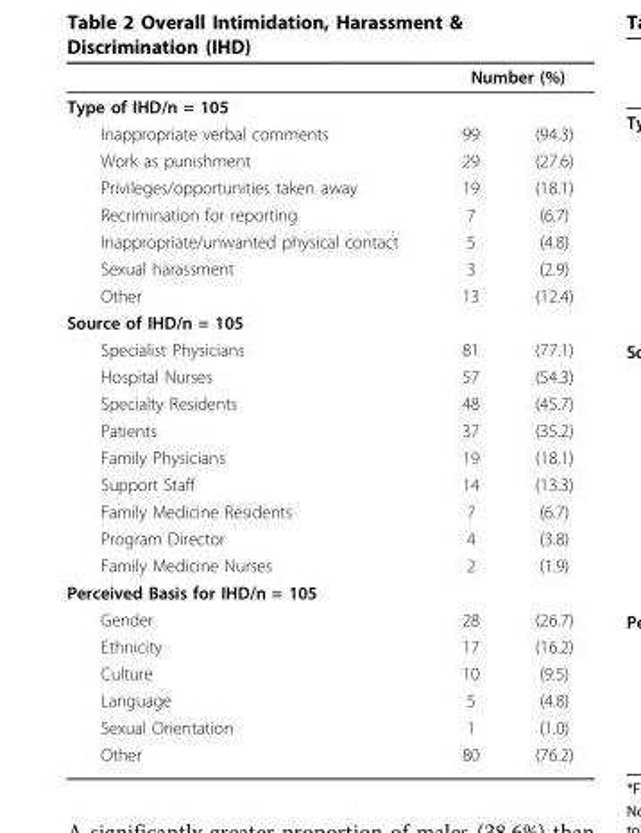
<table><thead><tr><td rowspan="2">Type of IHD/n = 105</td><td colspan="2">Number (%)</td></tr><tr><td></td><td></td></tr></thead><tbody><tr><td>Inappropriate verbal comments</td><td>99</td><td>(94.3)</td></tr><tr><td>Work as punishment</td><td>29</td><td>(27.6)</td></tr><tr><td>Privileges/opportunities taken away</td><td>19</td><td>(18.1)</td></tr><tr><td>Recrimination for reporting</td><td>7</td><td>(6.7)</td></tr><tr><td>Inappropriate/unwanted physical contact</td><td>5</td><td>(4.8)</td></tr><tr><td>Sexual harassment</td><td>3</td><td>(2.9)</td></tr><tr><td>Other</td><td>13</td><td>(12.4)</td></tr><tr><td colspan="3">Source of IHD/n = 105</td></tr><tr><td>Specialist Physicians</td><td>81</td><td>(77.1)</td></tr><tr><td>Hospital Nurses</td><td>57</td><td>(54.3)</td></tr><tr><td>Specialty Residents</td><td>48</td><td>(45.7)</td></tr><tr><td>Patients</td><td>37</td><td>(35.2)</td></tr><tr><td>Family Physicians</td><td>19</td><td>(18.1)</td></tr><tr><td>Support Staff</td><td>14</td><td>(13.3)</td></tr><tr><td>Family Medicine Residents</td><td>7</td><td>(6.7)</td></tr><tr><td>Program Director</td><td>4</td><td>(3.8)</td></tr><tr><td>Family Medicine Nurses</td><td>2</td><td>(1.9)</td></tr><tr><td colspan="3">Perceived Basis for IHD/n = 105</td></tr><tr><td>Gender</td><td>28</td><td>(26.7)</td></tr><tr><td>Ethnicity</td><td>17</td><td>(16.2)</td></tr><tr><td>Culture</td><td>10</td><td>(9.5)</td></tr><tr><td>Language</td><td>5</td><td>(4.8)</td></tr><tr><td>Sexual Orientation</td><td>1</td><td>(1.0)</td></tr><tr><td>Other</td><td>80</td><td>(76.2)</td></tr></tbody></table>